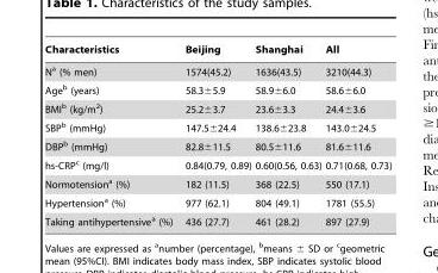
<table><thead><tr><td>Characteristics</td><td>Beijing</td><td>Shanghai</td><td>All</td></tr></thead><tbody><tr><td>N<sup>a</sup> (% men)</td><td>1574(45.2)</td><td>1636(43.5)</td><td>3210(44.3)</td></tr><tr><td>Age<sup>b</sup> (years)</td><td>58.3±5.9</td><td>58.9±6.0</td><td>58.6±6.0</td></tr><tr><td>BMI<sup>b</sup> (kg/m<sup>2</sup>)</td><td>25.2±3.7</td><td>23.6±3.3</td><td>24.4±3.6</td></tr><tr><td>SBP<sup>b</sup> (mmHg)</td><td>147.5±24.4</td><td>138.6±23.8</td><td>143.0±24.5</td></tr><tr><td>DBP<sup>b</sup> (mmHg)</td><td>82.8±11.5</td><td>80.5±11.6</td><td>81.6±11.6</td></tr><tr><td>hs-CRP<sup>c</sup> (mg/l)</td><td>0.84(0.79, 0.89)</td><td>0.60(0.56, 0.63)</td><td>0.71(0.68, 0.73)</td></tr><tr><td>Normotension<sup>a</sup> (%)</td><td>182 (11.5)</td><td>368 (22.5)</td><td>550 (17.1)</td></tr><tr><td>Hypertension<sup>a</sup> (%)</td><td>977 (62.1)</td><td>804 (49.1)</td><td>1781 (55.5)</td></tr><tr><td>Taking antihypertensive<sup>a</sup> (%)</td><td>436 (27.7)</td><td>461 (28.2)</td><td>897 (27.9)</td></tr></tbody></table>